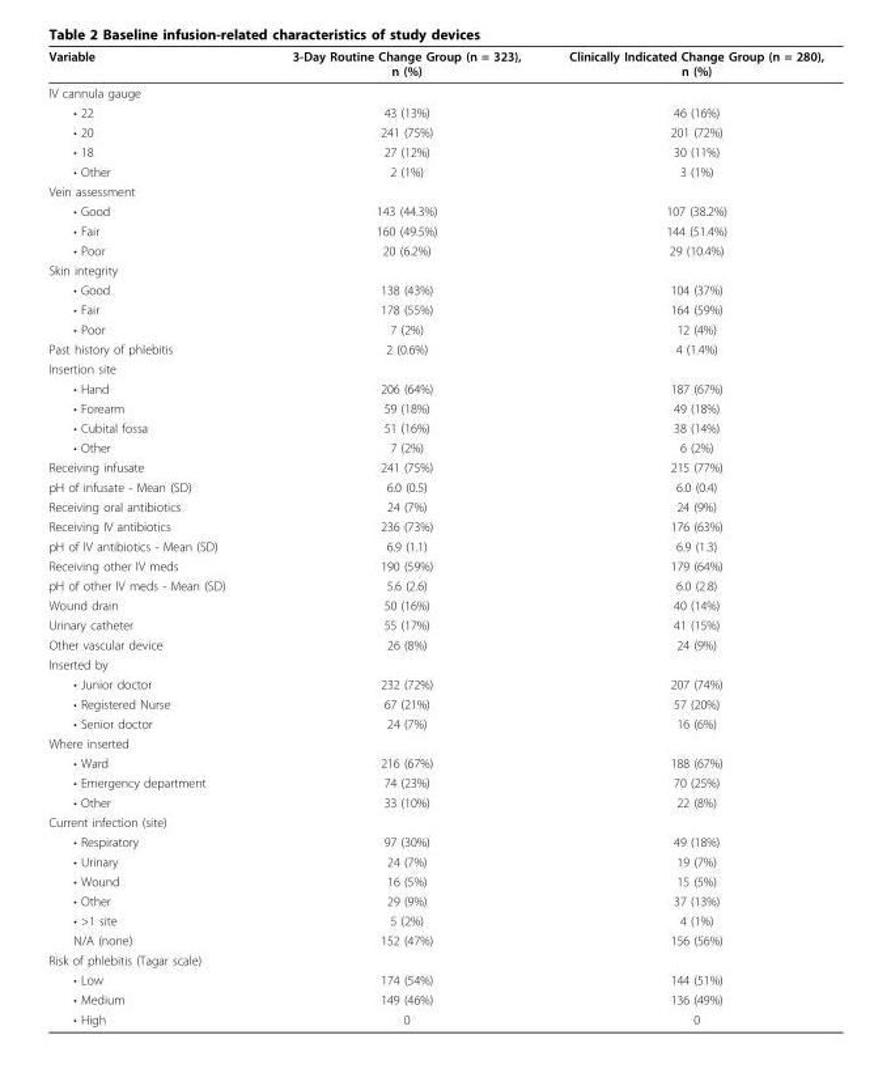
<table><thead><tr><td>Variable</td><td>3-Day Routine Change Group (n = 323), n (%)</td><td>Clinically Indicated Change Group (n = 280), n (%)</td></tr></thead><tbody><tr><td colspan="3">IV cannula gauge</td></tr><tr><td>• 22</td><td>43 (13%)</td><td>46 (16%)</td></tr><tr><td>• 20</td><td>241 (75%)</td><td>201 (72%)</td></tr><tr><td>• 18</td><td>27 (12%)</td><td>30 (11%)</td></tr><tr><td>• Other</td><td>2 (1%)</td><td>3 (1%)</td></tr><tr><td colspan="3">Vein assessment</td></tr><tr><td>• Good</td><td>143 (44.3%)</td><td>107 (38.2%)</td></tr><tr><td>• Fair</td><td>160 (49.5%)</td><td>144 (51.4%)</td></tr><tr><td>• Poor</td><td>20 (6.2%)</td><td>29 (10.4%)</td></tr><tr><td colspan="3">Skin integrity</td></tr><tr><td>• Good</td><td>138 (43%)</td><td>104 (37%)</td></tr><tr><td>• Fair</td><td>178 (55%)</td><td>164 (59%)</td></tr><tr><td>• Poor</td><td>7 (2%)</td><td>12 (4%)</td></tr><tr><td>Past history of phlebitis</td><td>2 (0.6%)</td><td>4 (1.4%)</td></tr><tr><td colspan="3">Insertion site</td></tr><tr><td>• Hand</td><td>206 (64%)</td><td>187 (67%)</td></tr><tr><td>• Forearm</td><td>59 (18%)</td><td>49 (18%)</td></tr><tr><td>• Cubital fossa</td><td>51 (16%)</td><td>38 (14%)</td></tr><tr><td>• Other</td><td>7 (2%)</td><td>6 (2%)</td></tr><tr><td>Receiving infusate</td><td>241 (75%)</td><td>215 (77%)</td></tr><tr><td>pH of infusate - Mean (SD)</td><td>6.0 (0.5)</td><td>6.0 (0.4)</td></tr><tr><td>Receiving oral antibiotics</td><td>24 (7%)</td><td>24 (9%)</td></tr><tr><td>Receiving IV antibiotics</td><td>236 (73%)</td><td>176 (63%)</td></tr><tr><td>pH of IV antibiotics - Mean (SD)</td><td>6.9 (1.1)</td><td>6.9 (1.3)</td></tr><tr><td>Receiving other IV meds</td><td>190 (59%)</td><td>179 (64%)</td></tr><tr><td>pH of other IV meds - Mean (SD)</td><td>5.6 (2.6)</td><td>6.0 (2.8)</td></tr><tr><td>Wound drain</td><td>50 (16%)</td><td>40 (14%)</td></tr><tr><td>Urinary catheter</td><td>55 (17%)</td><td>41 (15%)</td></tr><tr><td>Other vascular device</td><td>26 (8%)</td><td>24 (9%)</td></tr><tr><td colspan="3">Inserted by</td></tr><tr><td>• Junior doctor</td><td>232 (72%)</td><td>207 (74%)</td></tr><tr><td>• Registered Nurse</td><td>67 (21%)</td><td>57 (20%)</td></tr><tr><td>• Senior doctor</td><td>24 (7%)</td><td>16 (6%)</td></tr><tr><td colspan="3">Where inserted</td></tr><tr><td>• Ward</td><td>216 (67%)</td><td>188 (67%)</td></tr><tr><td>• Emergency department</td><td>74 (23%)</td><td>70 (25%)</td></tr><tr><td>• Other</td><td>33 (10%)</td><td>22 (8%)</td></tr><tr><td colspan="3">Current infection (site)</td></tr><tr><td>• Respiratory</td><td>97 (30%)</td><td>49 (18%)</td></tr><tr><td>• Urinary</td><td>24 (7%)</td><td>19 (7%)</td></tr><tr><td>• Wound</td><td>16 (5%)</td><td>15 (5%)</td></tr><tr><td>• Other</td><td>29 (9%)</td><td>37 (13%)</td></tr><tr><td>• &gt;1 site</td><td>5 (2%)</td><td>4 (1%)</td></tr><tr><td>N/A (none)</td><td>152 (47%)</td><td>156 (56%)</td></tr><tr><td colspan="3">Risk of phlebitis (Tagar scale)</td></tr><tr><td>• Low</td><td>174 (54%)</td><td>144 (51%)</td></tr><tr><td>• Medium</td><td>149 (46%)</td><td>136 (49%)</td></tr><tr><td>• High</td><td>0</td><td>0</td></tr></tbody></table>